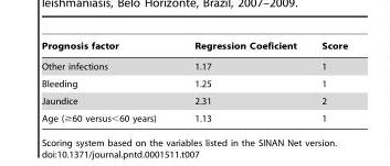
<table><thead><tr><td>Prognosis factor</td><td>Regression Coeficient</td><td>Score</td></tr></thead><tbody><tr><td>Other infections</td><td>1.17</td><td>1</td></tr><tr><td>Bleeding</td><td>1.25</td><td>1</td></tr><tr><td>Jaundice</td><td>2.31</td><td>2</td></tr><tr><td>Age (≥60 versus&lt;60 years)</td><td>1.13</td><td>1</td></tr></tbody></table>